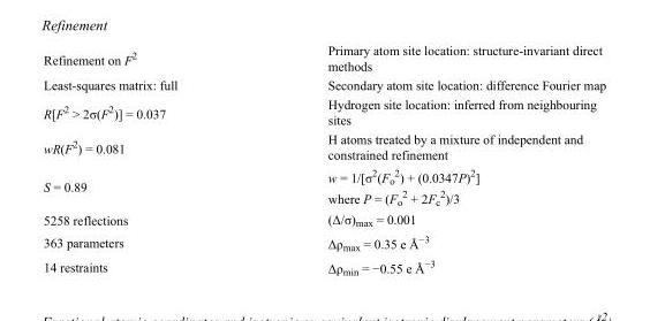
<table><tbody><tr><td>Refinement on F<sup>2</sup></td><td>Primary atom site location: structure-invariant direct methods</td></tr><tr><td>Least-squares matrix: full</td><td>Secondary atom site location: difference Fourier map</td></tr><tr><td>R[F<sup>2</sup> &gt; 2σ(F<sup>2</sup>)] = 0.037</td><td>Hydrogen site location: inferred from neighbouring sites</td></tr><tr><td>wR(F<sup>2</sup>) = 0.081</td><td>H atoms treated by a mixture of independent and constrained refinement</td></tr><tr><td>S = 0.89</td><td>w = 1/[σ<sup>2</sup>(F<sub>o</sub> <sup>2</sup>) + (0.0347P)<sup>2</sup>] where P = (F<sub>o</sub> <sup>2</sup> + 2F<sub>c</sub> <sup>2</sup>)/3</td></tr><tr><td>5258 reflections</td><td>(Δ/σ)<sub>max</sub> = 0.001</td></tr><tr><td>363 parameters</td><td>Δρ<sub>max</sub> = 0.35 e Å<sup>−3</sup></td></tr><tr><td>14 restraints</td><td>Δρ<sub>min</sub> = −0.55 e Å<sup>−3</sup></td></tr></tbody></table>